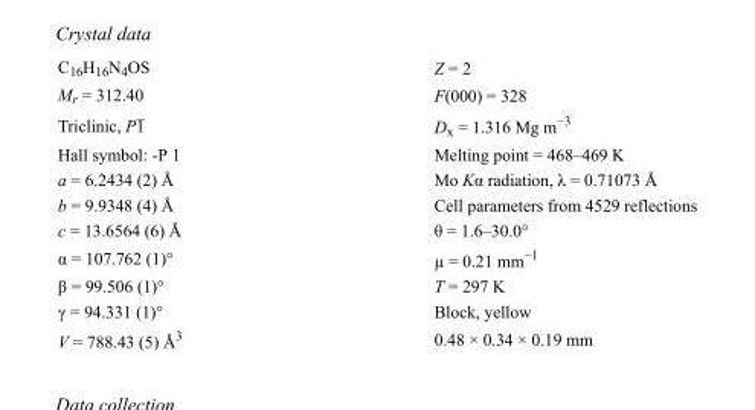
<table><tbody><tr><td>C<sub>16</sub>H<sub>16</sub>N<sub>4</sub>OS</td><td>Z = 2</td></tr><tr><td>M<sub>r</sub> = 312.40</td><td>F(000) = 328</td></tr><tr><td>Triclinic, P1</td><td>D<sub>x</sub> = 1.316 Mg m<sup>−3</sup></td></tr><tr><td>Hall symbol: -P 1</td><td>Melting point = 468–469 K</td></tr><tr><td>a = 6.2434 (2) Å</td><td>Mo Kα radiation, λ = 0.71073 Å</td></tr><tr><td>b = 9.9348 (4) Å</td><td>Cell parameters from 4529 reflections</td></tr><tr><td>c = 13.6564 (6) Å</td><td>θ = 1.6–30.0°</td></tr><tr><td>α = 107.762 (1)°</td><td>µ = 0.21 mm<sup>−1</sup></td></tr><tr><td>β = 99.506 (1)°</td><td>T = 297 K</td></tr><tr><td>γ = 94.331 (1)°</td><td>Block, yellow</td></tr><tr><td>V = 788.43 (5) Å<sup>3</sup></td><td>0.48 × 0.34 × 0.19 mm</td></tr></tbody></table>